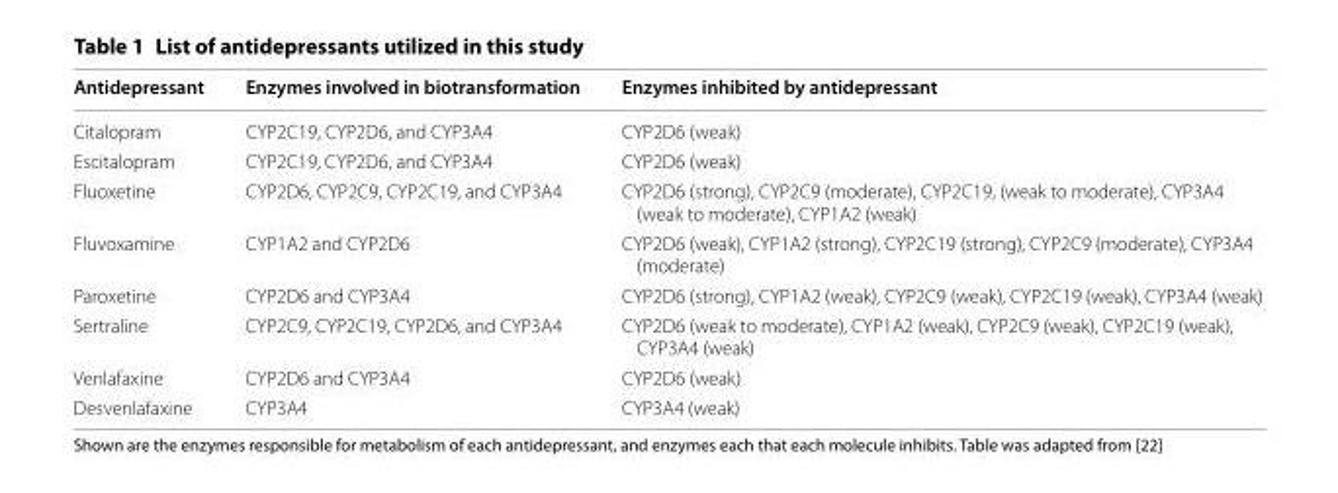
<table><thead><tr><td>Antidepressant</td><td>Enzymes involved in biotransformation</td><td>Enzymes inhibited by antidepressant</td></tr></thead><tbody><tr><td>Citalopram</td><td>CYP2C19, CYP2D6, and CYP3A4</td><td>CYP2D6 (weak)</td></tr><tr><td>Escitalopram</td><td>CYP2C19, CYP2D6, and CYP3A4</td><td>CYP2D6 (weak)</td></tr><tr><td>Fluoxetine</td><td>CYP2D6, CYP2C9, CYP2C19, and CYP3A4</td><td>CYP2D6 (strong), CYP2C9 (moderate), CYP2C19, (weak to moderate), CYP3A4 (weak to moderate), CYP1A2 (weak)</td></tr><tr><td>Fluvoxamine</td><td>CYP1A2 and CYP2D6</td><td>CYP2D6 (weak), CYP1A2 (strong), CYP2C19 (strong), CYP2C9 (moderate), CYP3A4 (moderate)</td></tr><tr><td>Paroxetine</td><td>CYP2D6 and CYP3A4</td><td>CYP2D6 (strong), CYP1A2 (weak), CYP2C9 (weak), CYP2C19 (weak), CYP3A4 (weak)</td></tr><tr><td>Sertraline</td><td>CYP2C9, CYP2C19, CYP2D6, and CYP3A4</td><td>CYP2D6 (weak to moderate), CYP1A2 (weak), CYP2C9 (weak), CYP2C19 (weak), CYP3A4 (weak)</td></tr><tr><td>Venlafaxine</td><td>CYP2D6 and CYP3A4</td><td>CYP2D6 (weak)</td></tr><tr><td>Desvenlafaxine</td><td>CYP3A4</td><td>CYP3A4 (weak)</td></tr></tbody></table>